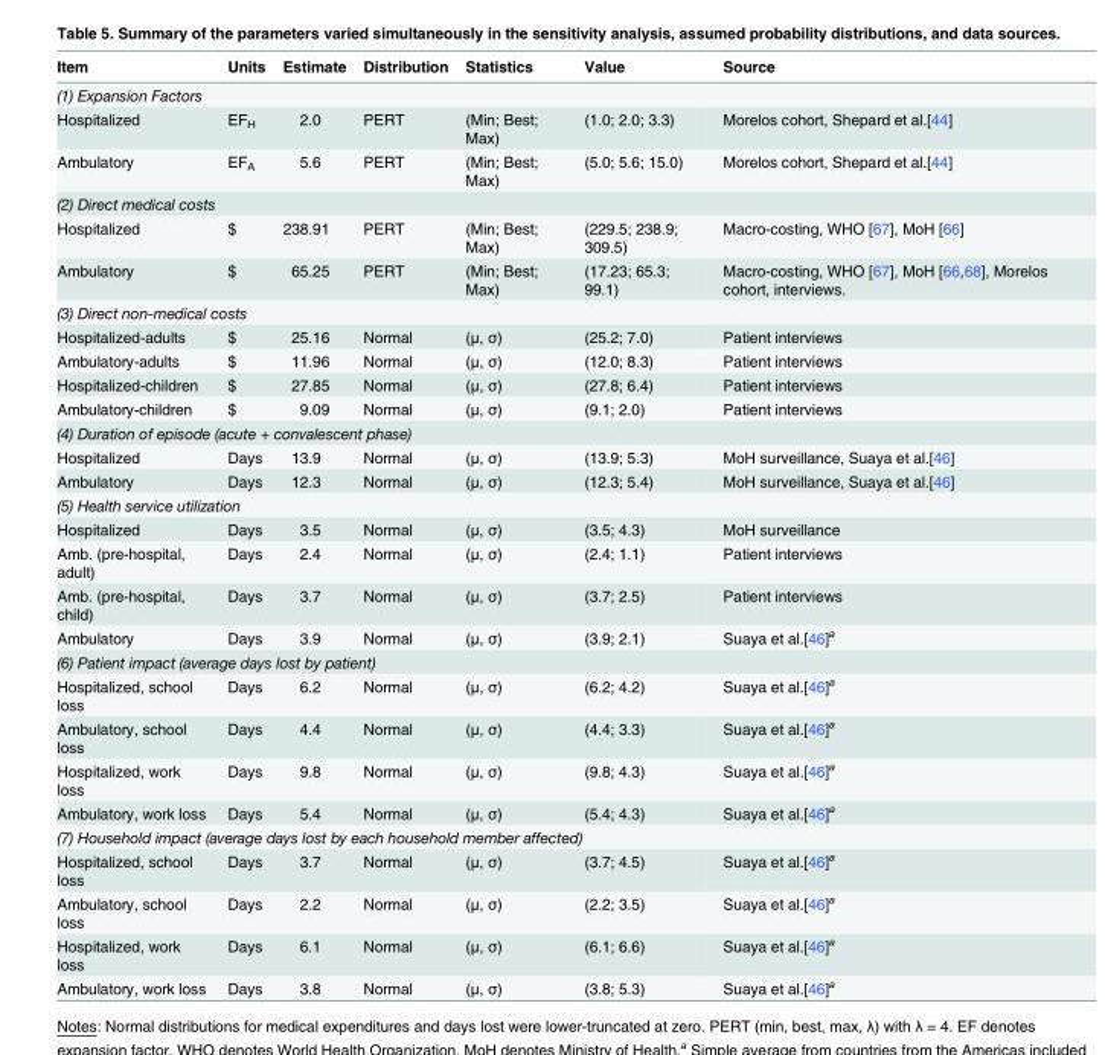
<table><thead><tr><td>Item</td><td>Units</td><td>Estimate</td><td>Distribution</td><td>Statistics</td><td>Value</td><td>Source</td></tr></thead><tbody><tr><td colspan="7">(1) Expansion Factors</td></tr><tr><td>Hospitalized</td><td>EF<sub>H</sub></td><td>2.0</td><td>PERT</td><td>(Min; Best; Max)</td><td>(1.0; 2.0; 3.3)</td><td>Morelos cohort, Shepard et al.[44]</td></tr><tr><td>Ambulatory</td><td>EF<sub>A</sub></td><td>5.6</td><td>PERT</td><td>(Min; Best; Max)</td><td>(5.0; 5.6; 15.0)</td><td>Morelos cohort, Shepard et al.[44]</td></tr><tr><td colspan="7">(2) Direct medical costs</td></tr><tr><td>Hospitalized</td><td>$</td><td>238.91</td><td>PERT</td><td>(Min; Best; Max)</td><td>(229.5; 238.9; 309.5)</td><td>Macro-costing, WHO [67], MoH [66]</td></tr><tr><td>Ambulatory</td><td>$</td><td>65.25</td><td>PERT</td><td>(Min; Best; Max)</td><td>(17.23; 65.3; 99.1)</td><td>Macro-costing, WHO [67], MoH [66,68], Morelos cohort, interviews.</td></tr><tr><td colspan="7">(3) Direct non-medical costs</td></tr><tr><td>Hospitalized-adults</td><td>$</td><td>25.16</td><td>Normal</td><td>(μ, σ)</td><td>(25.2; 7.0)</td><td>Patient interviews</td></tr><tr><td>Ambulatory-adults</td><td>$</td><td>11.96</td><td>Normal</td><td>(μ, σ)</td><td>(12.0; 8.3)</td><td>Patient interviews</td></tr><tr><td>Hospitalized-children</td><td>$</td><td>27.85</td><td>Normal</td><td>(μ, σ)</td><td>(27.8; 6.4)</td><td>Patient interviews</td></tr><tr><td>Ambulatory-children</td><td>$</td><td>9.09</td><td>Normal</td><td>(μ, σ)</td><td>(9.1; 2.0)</td><td>Patient interviews</td></tr><tr><td colspan="7">(4) Duration of episode (acute + convalescent phase)</td></tr><tr><td>Hospitalized</td><td>Days</td><td>13.9</td><td>Normal</td><td>(μ, σ)</td><td>(13.9; 5.3)</td><td>MoH surveillance, Suaya et al.[46]</td></tr><tr><td>Ambulatory</td><td>Days</td><td>12.3</td><td>Normal</td><td>(μ, σ)</td><td>(12.3; 5.4)</td><td>MoH surveillance, Suaya et al.[46]</td></tr><tr><td colspan="7">(5) Health service utilization</td></tr><tr><td>Hospitalized</td><td>Days</td><td>3.5</td><td>Normal</td><td>(μ, σ)</td><td>(3.5; 4.3)</td><td>MoH surveillance</td></tr><tr><td>Amb. (pre-hospital, adult)</td><td>Days</td><td>2.4</td><td>Normal</td><td>(μ, σ)</td><td>(2.4; 1.1)</td><td>Patient interviews</td></tr><tr><td>Amb. (pre-hospital, child)</td><td>Days</td><td>3.7</td><td>Normal</td><td>(μ, σ)</td><td>(3.7; 2.5)</td><td>Patient interviews</td></tr><tr><td>Ambulatory</td><td>Days</td><td>3.9</td><td>Normal</td><td>(μ, σ)</td><td>(3.9; 2.1)</td><td>Suaya et al.[46]<sup>a</sup></td></tr><tr><td colspan="7">(6) Patient impact (average days lost by patient)</td></tr><tr><td>Hospitalized, school loss</td><td>Days</td><td>6.2</td><td>Normal</td><td>(μ, σ)</td><td>(6.2; 4.2)</td><td>Suaya et al.[46]<sup>a</sup></td></tr><tr><td>Ambulatory, school loss</td><td>Days</td><td>4.4</td><td>Normal</td><td>(μ, σ)</td><td>(4.4; 3.3)</td><td>Suaya et al.[46]<sup>a</sup></td></tr><tr><td>Hospitalized, work loss</td><td>Days</td><td>9.8</td><td>Normal</td><td>(μ, σ)</td><td>(9.8; 4.3)</td><td>Suaya et al.[46]<sup>a</sup></td></tr><tr><td>Ambulatory, work loss</td><td>Days</td><td>5.4</td><td>Normal</td><td>(μ, σ)</td><td>(5.4; 4.3)</td><td>Suaya et al.[46]<sup>a</sup></td></tr><tr><td colspan="7">(7) Household impact (average days lost by each household member affected)</td></tr><tr><td>Hospitalized, school loss</td><td>Days</td><td>3.7</td><td>Normal</td><td>(μ, σ)</td><td>(3.7; 4.5)</td><td>Suaya et al.[46]<sup>a</sup></td></tr><tr><td>Ambulatory, school loss</td><td>Days</td><td>2.2</td><td>Normal</td><td>(μ, σ)</td><td>(2.2; 3.5)</td><td>Suaya et al.[46]<sup>a</sup></td></tr><tr><td>Hospitalized, work loss</td><td>Days</td><td>6.1</td><td>Normal</td><td>(μ, σ)</td><td>(6.1; 6.6)</td><td>Suaya et al.[46]<sup>a</sup></td></tr><tr><td>Ambulatory, work loss</td><td>Days</td><td>3.8</td><td>Normal</td><td>(μ, σ)</td><td>(3.8; 5.3)</td><td>Suaya et al.[46]<sup>a</sup></td></tr></tbody></table>